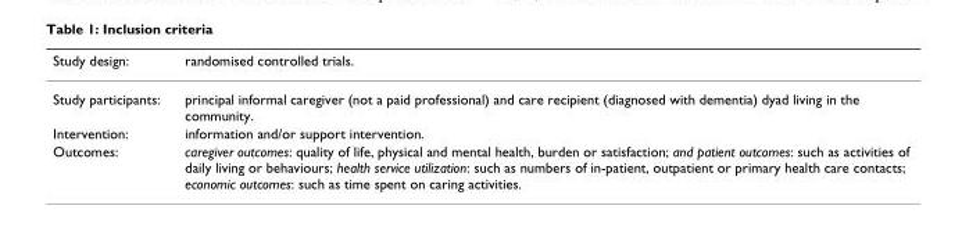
<table><thead><tr><td>Study design:</td><td>randomised controlled trials.</td></tr></thead><tbody><tr><td>Study participants:</td><td>principal informal caregiver (not a paid professional) and care recipient (diagnosed with dementia) dyad living in the community.</td></tr><tr><td>Intervention:</td><td>information and/or support intervention.</td></tr><tr><td>Outcomes:</td><td>caregiver outcomes: quality of life, physical and mental health, burden or satisfaction; and patient outcomes: such as activities of daily living or behaviours; health service utilization: such as numbers of in-patient, outpatient or primary health care contacts; economic outcomes: such as time spent on caring activities.</td></tr></tbody></table>